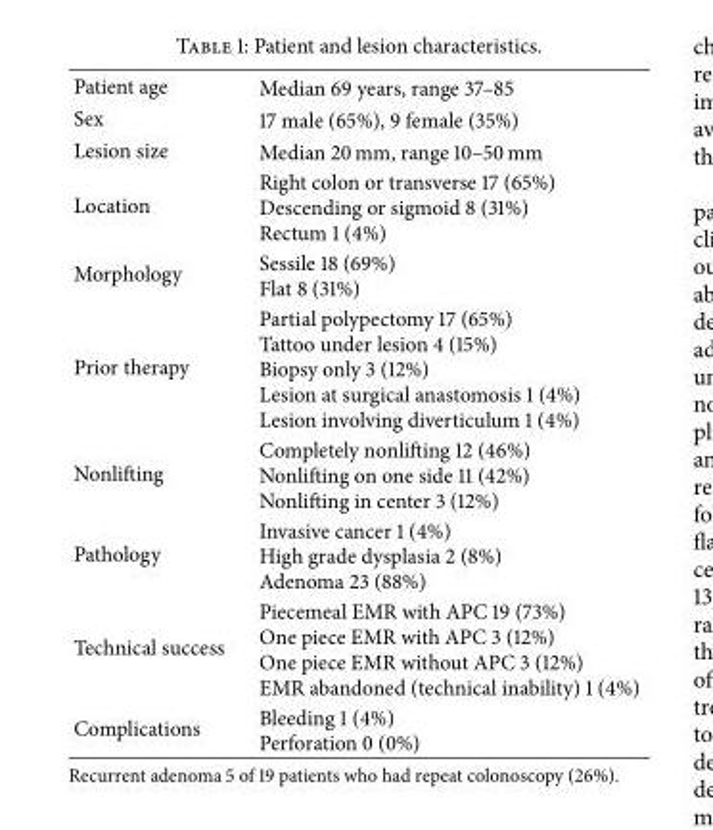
<table><tbody><tr><td>Patient age</td><td>Median 69 years, range 37–85</td></tr><tr><td>Sex</td><td>17 male (65%), 9 female (35%)</td></tr><tr><td>Lesion size</td><td>Median 20 mm, range 10–50 mm</td></tr><tr><td>Location</td><td>Right colon or transverse 17 (65%) Descending or sigmoid 8 (31%) Rectum 1 (4%)</td></tr><tr><td>Morphology</td><td>Sessile 18 (69%) Flat 8 (31%)</td></tr><tr><td>Prior therapy</td><td>Partial polypectomy 17 (65%) Tattoo under lesion 4 (15%) Biopsy only 3 (12%) Lesion at surgical anastomosis 1 (4%) Lesion involving diverticulum 1 (4%)</td></tr><tr><td>Nonlifting</td><td>Completely nonlifting 12 (46%) Nonlifting on one side 11 (42%) Nonlifting in center 3 (12%)</td></tr><tr><td>Pathology</td><td>Invasive cancer 1 (4%) High grade dysplasia 2 (8%) Adenoma 23 (88%)</td></tr><tr><td>Technical success</td><td>Piecemeal EMR with APC 19 (73%) One piece EMR with APC 3 (12%) One piece EMR without APC 3 (12%) EMR abandoned (technical inability) 1 (4%)</td></tr><tr><td>Complications</td><td>Bleeding 1 (4%) Perforation 0 (0%)</td></tr></tbody></table>